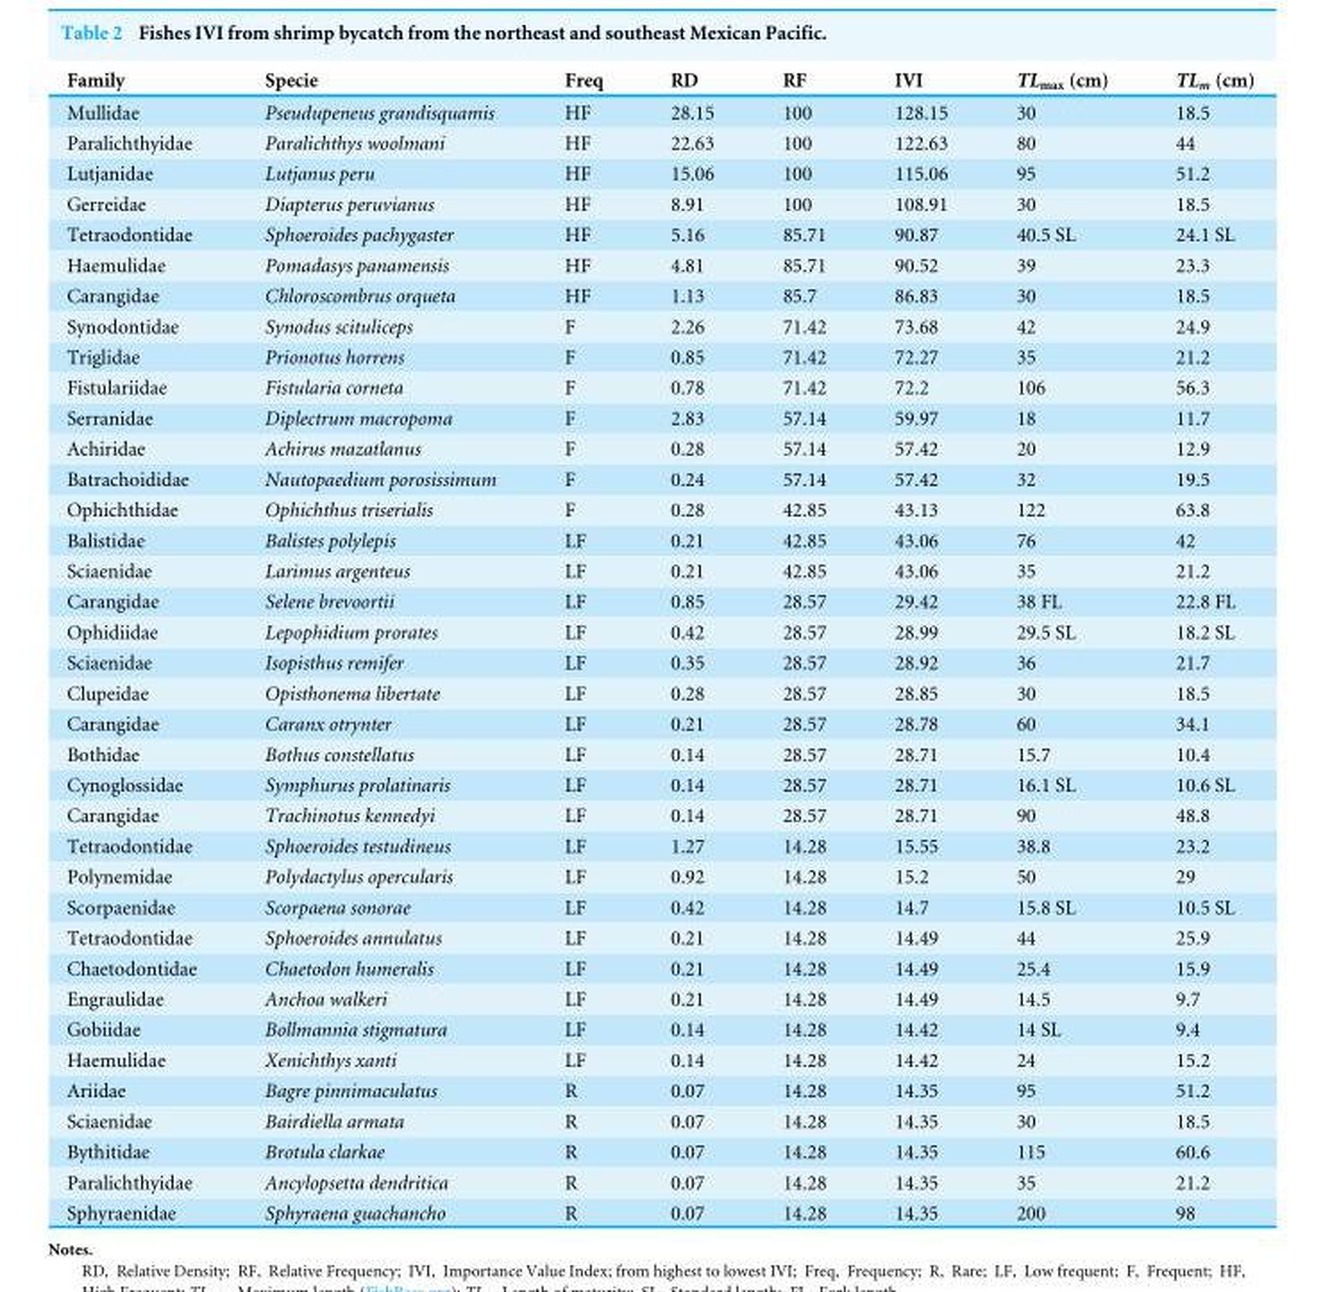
<table><thead><tr><td>Family</td><td>Specie</td><td>Freq</td><td>RD</td><td>RF</td><td>IVI</td><td>TL<sub>max</sub> (cm)</td><td>TL<sub>m</sub> (cm)</td></tr></thead><tbody><tr><td>Mullidae</td><td>Pseudupeneus grandisquamis</td><td>HF</td><td>28.15</td><td>100</td><td>128.15</td><td>30</td><td>18.5</td></tr><tr><td>Paralichthyidae</td><td>Paralichthys woolmani</td><td>HF</td><td>22.63</td><td>100</td><td>122.63</td><td>80</td><td>44</td></tr><tr><td>Lutjanidae</td><td>Lutjanus peru</td><td>HF</td><td>15.06</td><td>100</td><td>115.06</td><td>95</td><td>51.2</td></tr><tr><td>Gerreidae</td><td>Diapterus peruvianus</td><td>HF</td><td>8.91</td><td>100</td><td>108.91</td><td>30</td><td>18.5</td></tr><tr><td>Tetraodontidae</td><td>Sphoeroides pachygaster</td><td>HF</td><td>5.16</td><td>85.71</td><td>90.87</td><td>40.5 SL</td><td>24.1 SL</td></tr><tr><td>Haemulidae</td><td>Pomadasys panamensis</td><td>HF</td><td>4.81</td><td>85.71</td><td>90.52</td><td>39</td><td>23.3</td></tr><tr><td>Carangidae</td><td>Chloroscombrus orqueta</td><td>HF</td><td>1.13</td><td>85.7</td><td>86.83</td><td>30</td><td>18.5</td></tr><tr><td>Synodontidae</td><td>Synodus scituliceps</td><td>F</td><td>2.26</td><td>71.42</td><td>73.68</td><td>42</td><td>24.9</td></tr><tr><td>Triglidae</td><td>Prionotus horrens</td><td>F</td><td>0.85</td><td>71.42</td><td>72.27</td><td>35</td><td>21.2</td></tr><tr><td>Fistulariidae</td><td>Fistularia corneta</td><td>F</td><td>0.78</td><td>71.42</td><td>72.2</td><td>106</td><td>56.3</td></tr><tr><td>Serranidae</td><td>Diplectrum macropoma</td><td>F</td><td>2.83</td><td>57.14</td><td>59.97</td><td>18</td><td>11.7</td></tr><tr><td>Achiridae</td><td>Achirus mazatlanus</td><td>F</td><td>0.28</td><td>57.14</td><td>57.42</td><td>20</td><td>12.9</td></tr><tr><td>Batrachoididae</td><td>Nautopaedium porosissimum</td><td>F</td><td>0.24</td><td>57.14</td><td>57.42</td><td>32</td><td>19.5</td></tr><tr><td>Ophichthidae</td><td>Ophichthus triserialis</td><td>F</td><td>0.28</td><td>42.85</td><td>43.13</td><td>122</td><td>63.8</td></tr><tr><td>Balistidae</td><td>Balistes polylepis</td><td>LF</td><td>0.21</td><td>42.85</td><td>43.06</td><td>76</td><td>42</td></tr><tr><td>Sciaenidae</td><td>Larimus argenteus</td><td>LF</td><td>0.21</td><td>42.85</td><td>43.06</td><td>35</td><td>21.2</td></tr><tr><td>Carangidae</td><td>Selene brevoortii</td><td>LF</td><td>0.85</td><td>28.57</td><td>29.42</td><td>38 FL</td><td>22.8 FL</td></tr><tr><td>Ophidiidae</td><td>Lepophidium prorates</td><td>LF</td><td>0.42</td><td>28.57</td><td>28.99</td><td>29.5 SL</td><td>18.2 SL</td></tr><tr><td>Sciaenidae</td><td>Isopisthus remifer</td><td>LF</td><td>0.35</td><td>28.57</td><td>28.92</td><td>36</td><td>21.7</td></tr><tr><td>Clupeidae</td><td>Opisthonema libertate</td><td>LF</td><td>0.28</td><td>28.57</td><td>28.85</td><td>30</td><td>18.5</td></tr><tr><td>Carangidae</td><td>Caranx otrynter</td><td>LF</td><td>0.21</td><td>28.57</td><td>28.78</td><td>60</td><td>34.1</td></tr><tr><td>Bothidae</td><td>Bothus constellatus</td><td>LF</td><td>0.14</td><td>28.57</td><td>28.71</td><td>15.7</td><td>10.4</td></tr><tr><td>Cynoglossidae</td><td>Symphurus prolatinaris</td><td>LF</td><td>0.14</td><td>28.57</td><td>28.71</td><td>16.1 SL</td><td>10.6 SL</td></tr><tr><td>Carangidae</td><td>Trachinotus kennedyi</td><td>LF</td><td>0.14</td><td>28.57</td><td>28.71</td><td>90</td><td>48.8</td></tr><tr><td>Tetraodontidae</td><td>Sphoeroides testudineus</td><td>LF</td><td>1.27</td><td>14.28</td><td>15.55</td><td>38.8</td><td>23.2</td></tr><tr><td>Polynemidae</td><td>Polydactylus opercularis</td><td>LF</td><td>0.92</td><td>14.28</td><td>15.2</td><td>50</td><td>29</td></tr><tr><td>Scorpaenidae</td><td>Scorpaena sonorae</td><td>LF</td><td>0.42</td><td>14.28</td><td>14.7</td><td>15.8 SL</td><td>10.5 SL</td></tr><tr><td>Tetraodontidae</td><td>Sphoeroides annulatus</td><td>LF</td><td>0.21</td><td>14.28</td><td>14.49</td><td>44</td><td>25.9</td></tr><tr><td>Chaetodontidae</td><td>Chaetodon humeralis</td><td>LF</td><td>0.21</td><td>14.28</td><td>14.49</td><td>25.4</td><td>15.9</td></tr><tr><td>Engraulidae</td><td>Anchoa walkeri</td><td>LF</td><td>0.21</td><td>14.28</td><td>14.49</td><td>14.5</td><td>9.7</td></tr><tr><td>Gobiidae</td><td>Bollmannia stigmatura</td><td>LF</td><td>0.14</td><td>14.28</td><td>14.42</td><td>14 SL</td><td>9.4</td></tr><tr><td>Haemulidae</td><td>Xenichthys xanti</td><td>LF</td><td>0.14</td><td>14.28</td><td>14.42</td><td>24</td><td>15.2</td></tr><tr><td>Ariidae</td><td>Bagre pinnimaculatus</td><td>R</td><td>0.07</td><td>14.28</td><td>14.35</td><td>95</td><td>51.2</td></tr><tr><td>Sciaenidae</td><td>Bairdiella armata</td><td>R</td><td>0.07</td><td>14.28</td><td>14.35</td><td>30</td><td>18.5</td></tr><tr><td>Bythitidae</td><td>Brotula clarkae</td><td>R</td><td>0.07</td><td>14.28</td><td>14.35</td><td>115</td><td>60.6</td></tr><tr><td>Paralichthyidae</td><td>Ancylopsetta dendritica</td><td>R</td><td>0.07</td><td>14.28</td><td>14.35</td><td>35</td><td>21.2</td></tr><tr><td>Sphyraenidae</td><td>Sphyraena guachancho</td><td>R</td><td>0.07</td><td>14.28</td><td>14.35</td><td>200</td><td>98</td></tr></tbody></table>